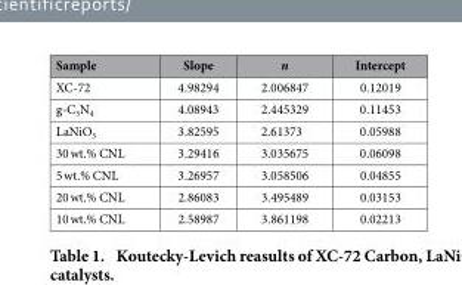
<table><thead><tr><td>Sample</td><td>Slope</td><td>n</td><td>Intercept</td></tr></thead><tbody><tr><td>XC-72</td><td>4.98294</td><td>2.006847</td><td>0.12019</td></tr><tr><td>g-C<sub>3</sub>N<sub>4</sub></td><td>4.08943</td><td>2.445329</td><td>0.11453</td></tr><tr><td>LaNiO<sub>3</sub></td><td>3.82595</td><td>2.61373</td><td>0.05988</td></tr><tr><td>30 wt.% CNL</td><td>3.29416</td><td>3.035675</td><td>0.06098</td></tr><tr><td>5 wt.% CNL</td><td>3.26957</td><td>3.058506</td><td>0.04855</td></tr><tr><td>20 wt.% CNL</td><td>2.86083</td><td>3.495489</td><td>0.03153</td></tr><tr><td>10 wt.% CNL</td><td>2.58987</td><td>3.861198</td><td>0.02213</td></tr></tbody></table>